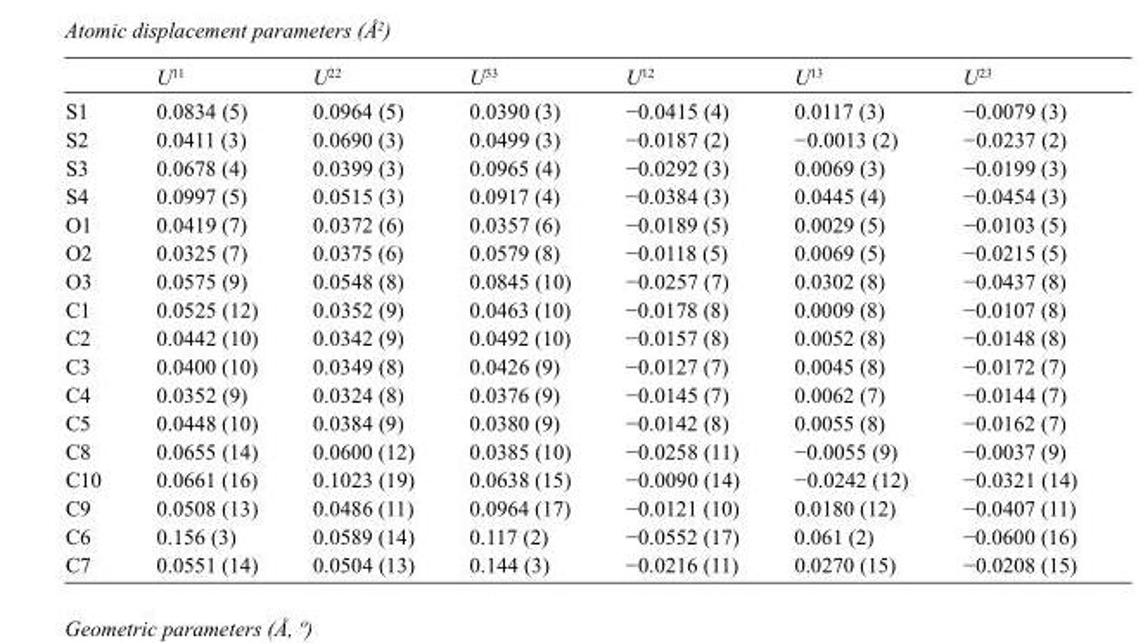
<table><thead><tr><td></td><td>U<sup>11</sup></td><td>U<sup>22</sup></td><td>U<sup>33</sup></td><td>U<sup>12</sup></td><td>U<sup>13</sup></td><td>U<sup>23</sup></td></tr></thead><tbody><tr><td>S1</td><td>0.0834 (5)</td><td>0.0964 (5)</td><td>0.0390 (3)</td><td>−0.0415 (4)</td><td>0.0117 (3)</td><td>−0.0079 (3)</td></tr><tr><td>S2</td><td>0.0411 (3)</td><td>0.0690 (3)</td><td>0.0499 (3)</td><td>−0.0187 (2)</td><td>−0.0013 (2)</td><td>−0.0237 (2)</td></tr><tr><td>S3</td><td>0.0678 (4)</td><td>0.0399 (3)</td><td>0.0965 (4)</td><td>−0.0292 (3)</td><td>0.0069 (3)</td><td>−0.0199 (3)</td></tr><tr><td>S4</td><td>0.0997 (5)</td><td>0.0515 (3)</td><td>0.0917 (4)</td><td>−0.0384 (3)</td><td>0.0445 (4)</td><td>−0.0454 (3)</td></tr><tr><td>O1</td><td>0.0419 (7)</td><td>0.0372 (6)</td><td>0.0357 (6)</td><td>−0.0189 (5)</td><td>0.0029 (5)</td><td>−0.0103 (5)</td></tr><tr><td>O2</td><td>0.0325 (7)</td><td>0.0375 (6)</td><td>0.0579 (8)</td><td>−0.0118 (5)</td><td>0.0069 (5)</td><td>−0.0215 (5)</td></tr><tr><td>O3</td><td>0.0575 (9)</td><td>0.0548 (8)</td><td>0.0845 (10)</td><td>−0.0257 (7)</td><td>0.0302 (8)</td><td>−0.0437 (8)</td></tr><tr><td>C1</td><td>0.0525 (12)</td><td>0.0352 (9)</td><td>0.0463 (10)</td><td>−0.0178 (8)</td><td>0.0009 (8)</td><td>−0.0107 (8)</td></tr><tr><td>C2</td><td>0.0442 (10)</td><td>0.0342 (9)</td><td>0.0492 (10)</td><td>−0.0157 (8)</td><td>0.0052 (8)</td><td>−0.0148 (8)</td></tr><tr><td>C3</td><td>0.0400 (10)</td><td>0.0349 (8)</td><td>0.0426 (9)</td><td>−0.0127 (7)</td><td>0.0045 (8)</td><td>−0.0172 (7)</td></tr><tr><td>C4</td><td>0.0352 (9)</td><td>0.0324 (8)</td><td>0.0376 (9)</td><td>−0.0145 (7)</td><td>0.0062 (7)</td><td>−0.0144 (7)</td></tr><tr><td>C5</td><td>0.0448 (10)</td><td>0.0384 (9)</td><td>0.0380 (9)</td><td>−0.0142 (8)</td><td>0.0055 (8)</td><td>−0.0162 (7)</td></tr><tr><td>C8</td><td>0.0655 (14)</td><td>0.0600 (12)</td><td>0.0385 (10)</td><td>−0.0258 (11)</td><td>−0.0055 (9)</td><td>−0.0037 (9)</td></tr><tr><td>C10</td><td>0.0661 (16)</td><td>0.1023 (19)</td><td>0.0638 (15)</td><td>−0.0090 (14)</td><td>−0.0242 (12)</td><td>−0.0321 (14)</td></tr><tr><td>C9</td><td>0.0508 (13)</td><td>0.0486 (11)</td><td>0.0964 (17)</td><td>−0.0121 (10)</td><td>0.0180 (12)</td><td>−0.0407 (11)</td></tr><tr><td>C6</td><td>0.156 (3)</td><td>0.0589 (14)</td><td>0.117 (2)</td><td>−0.0552 (17)</td><td>0.061 (2)</td><td>−0.0600 (16)</td></tr><tr><td>C7</td><td>0.0551 (14)</td><td>0.0504 (13)</td><td>0.144 (3)</td><td>−0.0216 (11)</td><td>0.0270 (15)</td><td>−0.0208 (15)</td></tr></tbody></table>